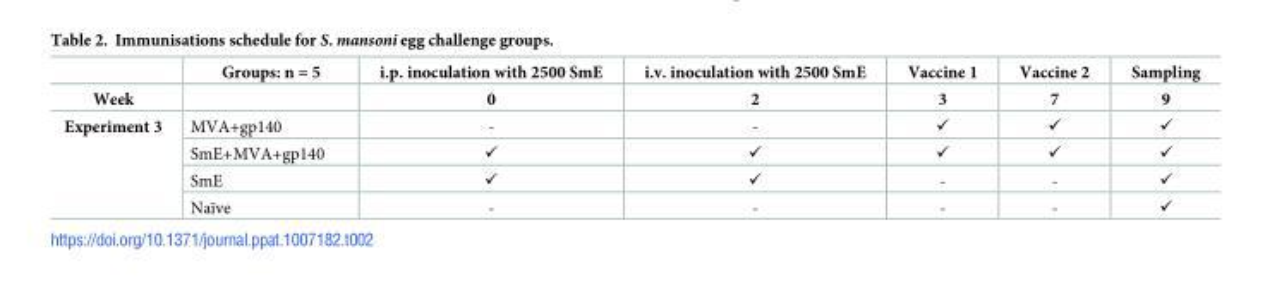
<table><thead><tr><td rowspan="2">Week</td><td rowspan="2">Groups: n = 5</td><td rowspan="2">i.p. inoculation with 2500 SmE 0</td><td rowspan="2">i.v. inoculation with 2500 SmE 2</td><td rowspan="2">Vaccine 1 3</td><td rowspan="2">Vaccine 2 7</td><td rowspan="2">Sampling 9</td></tr><tr></tr></thead><tbody><tr><td rowspan="4">Experiment 3</td><td>MVA+gp140</td><td>-</td><td>-</td><td>✓</td><td>✓</td><td>✓</td></tr><tr><td>SmE+MVA+gp140</td><td>✓</td><td>✓</td><td>✓</td><td>✓</td><td>✓</td></tr><tr><td>SmE</td><td>✓</td><td>✓</td><td>-</td><td>-</td><td>✓</td></tr><tr><td>Naïve</td><td>-</td><td>-</td><td>-</td><td>-</td><td>✓</td></tr></tbody></table>